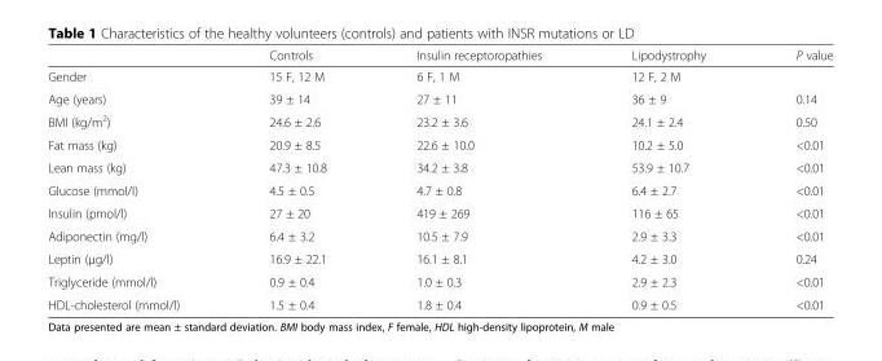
<table><thead><tr><td></td><td>Controls</td><td>Insulin receptoropathies</td><td>Lipodystrophy</td><td>P value</td></tr></thead><tbody><tr><td>Gender</td><td>15 F, 12 M</td><td>6 F, 1 M</td><td>12 F, 2 M</td><td></td></tr><tr><td>Age (years)</td><td>39 ± 14</td><td>27 ± 11</td><td>36 ± 9</td><td>0.14</td></tr><tr><td>BMI (kg/m<sup>2</sup>)</td><td>24.6 ± 2.6</td><td>23.2 ± 3.6</td><td>24.1 ± 2.4</td><td>0.50</td></tr><tr><td>Fat mass (kg)</td><td>20.9 ± 8.5</td><td>22.6 ± 10.0</td><td>10.2 ± 5.0</td><td>&lt;0.01</td></tr><tr><td>Lean mass (kg)</td><td>47.3 ± 10.8</td><td>34.2 ± 3.8</td><td>53.9 ± 10.7</td><td>&lt;0.01</td></tr><tr><td>Glucose (mmol/l)</td><td>4.5 ± 0.5</td><td>4.7 ± 0.8</td><td>6.4 ± 2.7</td><td>&lt;0.01</td></tr><tr><td>Insulin (pmol/l)</td><td>27 ± 20</td><td>419 ± 269</td><td>116 ± 65</td><td>&lt;0.01</td></tr><tr><td>Adiponectin (mg/l)</td><td>6.4 ± 3.2</td><td>10.5 ± 7.9</td><td>2.9 ± 3.3</td><td>&lt;0.01</td></tr><tr><td>Leptin (μg/l)</td><td>16.9 ± 22.1</td><td>16.1 ± 8.1</td><td>4.2 ± 3.0</td><td>0.24</td></tr><tr><td>Triglyceride (mmol/l)</td><td>0.9 ± 0.4</td><td>1.0 ± 0.3</td><td>2.9 ± 2.3</td><td>&lt;0.01</td></tr><tr><td>HDL-cholesterol (mmol/l)</td><td>1.5 ± 0.4</td><td>1.8 ± 0.4</td><td>0.9 ± 0.5</td><td>&lt;0.01</td></tr></tbody></table>